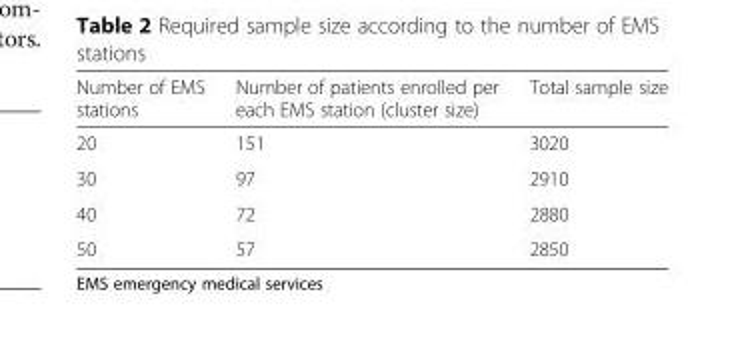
<table><thead><tr><td>Number of EMS stations</td><td>Number of patients enrolled per each EMS station (cluster size)</td><td>Total sample size</td></tr></thead><tbody><tr><td>20</td><td>151</td><td>3020</td></tr><tr><td>30</td><td>97</td><td>2910</td></tr><tr><td>40</td><td>72</td><td>2880</td></tr><tr><td>50</td><td>57</td><td>2850</td></tr></tbody></table>